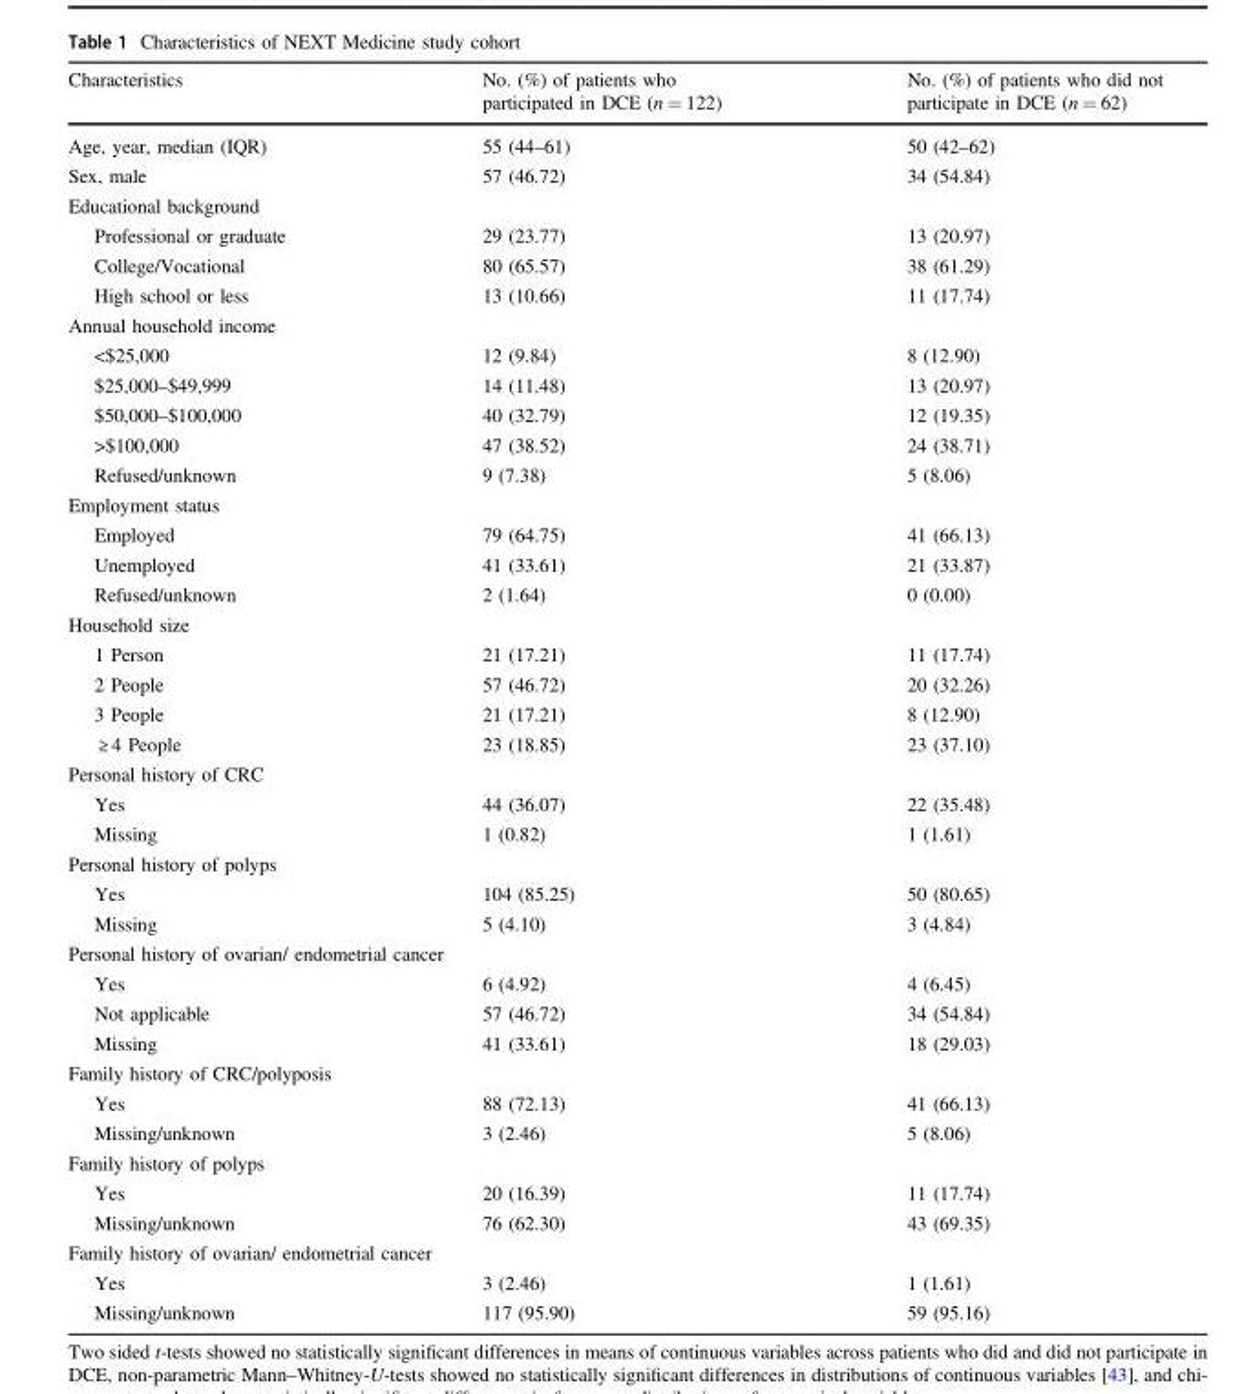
<table><thead><tr><td>Characteristics</td><td>No. (%) of patients who participated in DCE (n = 122)</td><td>No. (%) of patients who did not participate in DCE (n = 62)</td></tr></thead><tbody><tr><td>Age, year, median (IQR)</td><td>55 (44–61)</td><td>50 (42–62)</td></tr><tr><td>Sex, male</td><td>57 (46.72)</td><td>34 (54.84)</td></tr><tr><td colspan="3">Educational background</td></tr><tr><td>Professional or graduate</td><td>29 (23.77)</td><td>13 (20.97)</td></tr><tr><td>College/Vocational</td><td>80 (65.57)</td><td>38 (61.29)</td></tr><tr><td>High school or less</td><td>13 (10.66)</td><td>11 (17.74)</td></tr><tr><td colspan="3">Annual household income</td></tr><tr><td>&lt;$25,000</td><td>12 (9.84)</td><td>8 (12.90)</td></tr><tr><td>$25,000–$49,999</td><td>14 (11.48)</td><td>13 (20.97)</td></tr><tr><td>$50,000–$100,000</td><td>40 (32.79)</td><td>12 (19.35)</td></tr><tr><td>&gt;$100,000</td><td>47 (38.52)</td><td>24 (38.71)</td></tr><tr><td>Refused/unknown</td><td>9 (7.38)</td><td>5 (8.06)</td></tr><tr><td colspan="3">Employment status</td></tr><tr><td>Employed</td><td>79 (64.75)</td><td>41 (66.13)</td></tr><tr><td>Unemployed</td><td>41 (33.61)</td><td>21 (33.87)</td></tr><tr><td>Refused/unknown</td><td>2 (1.64)</td><td>0 (0.00)</td></tr><tr><td colspan="3">Household size</td></tr><tr><td>1 Person</td><td>21 (17.21)</td><td>11 (17.74)</td></tr><tr><td>2 People</td><td>57 (46.72)</td><td>20 (32.26)</td></tr><tr><td>3 People</td><td>21 (17.21)</td><td>8 (12.90)</td></tr><tr><td>≥ 4 People</td><td>23 (18.85)</td><td>23 (37.10)</td></tr><tr><td colspan="3">Personal history of CRC</td></tr><tr><td>Yes</td><td>44 (36.07)</td><td>22 (35.48)</td></tr><tr><td>Missing</td><td>1 (0.82)</td><td>1 (1.61)</td></tr><tr><td colspan="3">Personal history of polyps</td></tr><tr><td>Yes</td><td>104 (85.25)</td><td>50 (80.65)</td></tr><tr><td>Missing</td><td>5 (4.10)</td><td>3 (4.84)</td></tr><tr><td colspan="3">Personal history of ovarian/ endometrial cancer</td></tr><tr><td>Yes</td><td>6 (4.92)</td><td>4 (6.45)</td></tr><tr><td>Not applicable</td><td>57 (46.72)</td><td>34 (54.84)</td></tr><tr><td>Missing</td><td>41 (33.61)</td><td>18 (29.03)</td></tr><tr><td colspan="3">Family history of CRC/polyposis</td></tr><tr><td>Yes</td><td>88 (72.13)</td><td>41 (66.13)</td></tr><tr><td>Missing/unknown</td><td>3 (2.46)</td><td>5 (8.06)</td></tr><tr><td colspan="3">Family history of polyps</td></tr><tr><td>Yes</td><td>20 (16.39)</td><td>11 (17.74)</td></tr><tr><td>Missing/unknown</td><td>76 (62.30)</td><td>43 (69.35)</td></tr><tr><td colspan="3">Family history of ovarian/ endometrial cancer</td></tr><tr><td>Yes</td><td>3 (2.46)</td><td>1 (1.61)</td></tr><tr><td>Missing/unknown</td><td>117 (95.90)</td><td>59 (95.16)</td></tr></tbody></table>